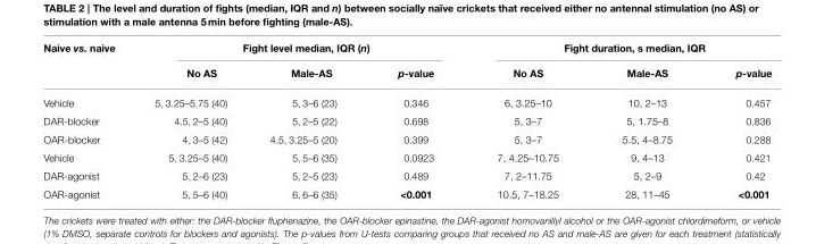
<table><thead><tr><td rowspan="2">Naive vs. naive</td><td colspan="3">Fight level median, IQR (n)</td><td colspan="3">Fight duration, s median, IQR</td></tr><tr><td>No AS</td><td>Male-AS</td><td>p-value</td><td>No AS</td><td>Male-AS</td><td>p-value</td></tr></thead><tbody><tr><td>Vehicle</td><td>5, 3.25–5.75 (40)</td><td>5, 3–6 (23)</td><td>0.346</td><td>6, 3.25–10</td><td>10, 2–13</td><td>0.457</td></tr><tr><td>DAR-blocker</td><td>4.5, 2–5 (40)</td><td>5, 2–5 (22)</td><td>0.698</td><td>5, 3–7</td><td>5, 1.75–8</td><td>0.836</td></tr><tr><td>OAR-blocker</td><td>4, 3–5 (42)</td><td>4.5, 3.25–5 (20)</td><td>0.399</td><td>5, 3–7</td><td>5.5, 4–8.75</td><td>0.288</td></tr><tr><td>Vehicle</td><td>5, 3.25–5 (40)</td><td>5, 5–6 (35)</td><td>0.0923</td><td>7, 4.25–10.75</td><td>9, 4–13</td><td>0.421</td></tr><tr><td>DAR-agonist</td><td>5, 2–6 (23)</td><td>5, 2–5 (23)</td><td>0.489</td><td>7, 2–11.75</td><td>5, 2–9</td><td>0.42</td></tr><tr><td>OAR-agonist</td><td>5, 5–6 (40)</td><td>6, 6–6 (35)</td><td>&lt;0.001</td><td>10.5, 7–18.25</td><td>28, 11–45</td><td>&lt;0.001</td></tr></tbody></table>